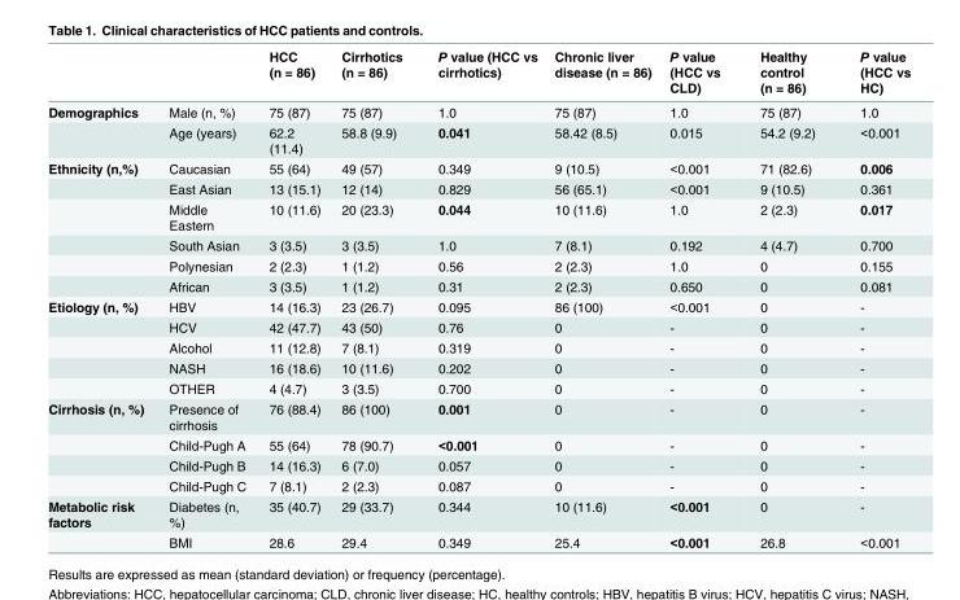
<table><thead><tr><td></td><td></td><td>HCC (n = 86)</td><td>Cirrhotics (n = 86)</td><td>P value (HCC vs cirrhotics)</td><td>Chronic liver disease (n = 86)</td><td>P value (HCC vs CLD)</td><td>Healthy control (n = 86)</td><td>P value (HCC vs HC)</td></tr></thead><tbody><tr><td rowspan="2">Demographics</td><td>Male (n, %)</td><td>75 (87)</td><td>75 (87)</td><td>1.0</td><td>75 (87)</td><td>1.0</td><td>75 (87)</td><td>1.0</td></tr><tr><td>Age (years)</td><td>62.2 (11.4)</td><td>58.8 (9.9)</td><td>0.041</td><td>58.42 (8.5)</td><td>0.015</td><td>54.2 (9.2)</td><td>&lt;0.001</td></tr><tr><td rowspan="6">Ethnicity (n,%)</td><td>Caucasian</td><td>55 (64)</td><td>49 (57)</td><td>0.349</td><td>9 (10.5)</td><td>&lt;0.001</td><td>71 (82.6)</td><td>0.006</td></tr><tr><td>East Asian</td><td>13 (15.1)</td><td>12 (14)</td><td>0.829</td><td>56 (65.1)</td><td>&lt;0.001</td><td>9 (10.5)</td><td>0.361</td></tr><tr><td>Middle Eastern</td><td>10 (11.6)</td><td>20 (23.3)</td><td>0.044</td><td>10 (11.6)</td><td>1.0</td><td>2 (2.3)</td><td>0.017</td></tr><tr><td>South Asian</td><td>3 (3.5)</td><td>3 (3.5)</td><td>1.0</td><td>7 (8.1)</td><td>0.192</td><td>4 (4.7)</td><td>0.700</td></tr><tr><td>Polynesian</td><td>2 (2.3)</td><td>1 (1.2)</td><td>0.56</td><td>2 (2.3)</td><td>1.0</td><td>0</td><td>0.155</td></tr><tr><td>African</td><td>3 (3.5)</td><td>1 (1.2)</td><td>0.31</td><td>2 (2.3)</td><td>0.650</td><td>0</td><td>0.081</td></tr><tr><td rowspan="5">Etiology (n, %)</td><td>HBV</td><td>14 (16.3)</td><td>23 (26.7)</td><td>0.095</td><td>86 (100)</td><td>&lt;0.001</td><td>0</td><td>-</td></tr><tr><td>HCV</td><td>42 (47.7)</td><td>43 (50)</td><td>0.76</td><td>0</td><td>-</td><td>0</td><td>-</td></tr><tr><td>Alcohol</td><td>11 (12.8)</td><td>7 (8.1)</td><td>0.319</td><td>0</td><td>-</td><td>0</td><td>-</td></tr><tr><td>NASH</td><td>16 (18.6)</td><td>10 (11.6)</td><td>0.202</td><td>0</td><td>-</td><td>0</td><td>-</td></tr><tr><td>OTHER</td><td>4 (4.7)</td><td>3 (3.5)</td><td>0.700</td><td>0</td><td>-</td><td>0</td><td>-</td></tr><tr><td rowspan="4">Cirrhosis (n, %)</td><td>Presence of cirrhosis</td><td>76 (88.4)</td><td>86 (100)</td><td>0.001</td><td>0</td><td>-</td><td>0</td><td>-</td></tr><tr><td>Child-Pugh A</td><td>55 (64)</td><td>78 (90.7)</td><td>&lt;0.001</td><td>0</td><td>-</td><td>0</td><td>-</td></tr><tr><td>Child-Pugh B</td><td>14 (16.3)</td><td>6 (7.0)</td><td>0.057</td><td>0</td><td>-</td><td>0</td><td>-</td></tr><tr><td>Child-Pugh C</td><td>7 (8.1)</td><td>2 (2.3)</td><td>0.087</td><td>0</td><td>-</td><td>0</td><td>-</td></tr><tr><td rowspan="2">Metabolic risk factors</td><td>Diabetes (n, %)</td><td>35 (40.7)</td><td>29 (33.7)</td><td>0.344</td><td>10 (11.6)</td><td>&lt;0.001</td><td>0</td><td>-</td></tr><tr><td>BMI</td><td>28.6</td><td>29.4</td><td>0.349</td><td>25.4</td><td>&lt;0.001</td><td>26.8</td><td>&lt;0.001</td></tr></tbody></table>